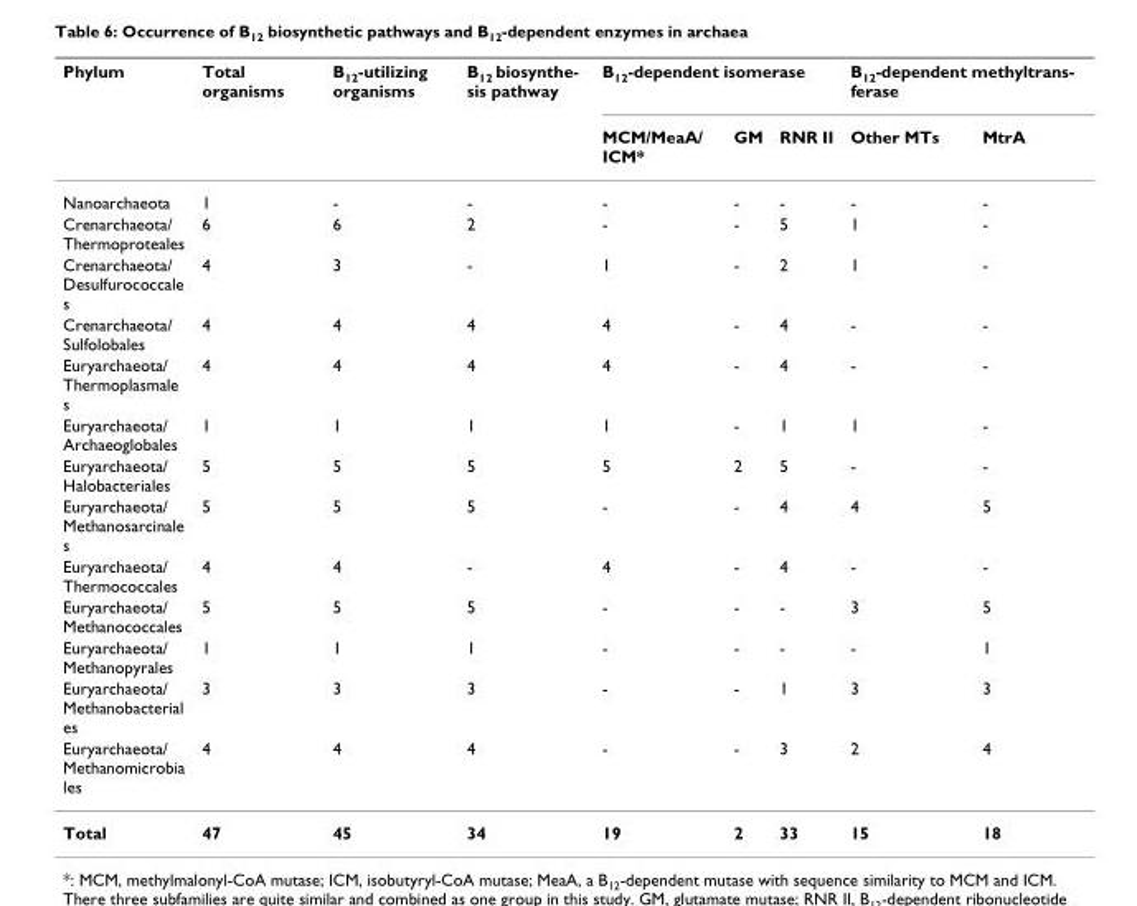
<table><thead><tr><td rowspan="2">Phylum</td><td rowspan="2">Total organisms</td><td rowspan="2">B<sub>12</sub>-utilizing organisms</td><td rowspan="2">B12 biosynthe- sis pathway</td><td colspan="3">B<sub>12</sub>-dependent isomerase</td><td colspan="2">B12-dependent methyltrans- ferase</td></tr><tr><td>MCM/MeaA/ ICM*</td><td>GM</td><td>RNR II</td><td>Other MTs</td><td>MtrA</td></tr></thead><tbody><tr><td>Nanoarchaeota</td><td>1</td><td>-</td><td>-</td><td>-</td><td>-</td><td>-</td><td>-</td><td>-</td></tr><tr><td>Crenarchaeota/ Thermoproteales</td><td>6</td><td>6</td><td>2</td><td>-</td><td>-</td><td>5</td><td>1</td><td>-</td></tr><tr><td>Crenarchaeota/ Desulfurococcale s</td><td>4</td><td>3</td><td>-</td><td>1</td><td>-</td><td>2</td><td>1</td><td>-</td></tr><tr><td>Crenarchaeota/ Sulfolobales</td><td>4</td><td>4</td><td>4</td><td>4</td><td>-</td><td>4</td><td>-</td><td>-</td></tr><tr><td>Euryarchaeota/ Thermoplasmale s</td><td>4</td><td>4</td><td>4</td><td>4</td><td>-</td><td>4</td><td>-</td><td>-</td></tr><tr><td>Euryarchaeota/ Archaeoglobales</td><td>1</td><td>1</td><td>1</td><td>1</td><td>-</td><td>1</td><td>1</td><td>-</td></tr><tr><td>Euryarchaeota/ Halobacteriales</td><td>5</td><td>5</td><td>5</td><td>5</td><td>2</td><td>5</td><td>-</td><td>-</td></tr><tr><td>Euryarchaeota/ Methanosarcinale s</td><td>5</td><td>5</td><td>5</td><td>-</td><td>-</td><td>4</td><td>4</td><td>5</td></tr><tr><td>Euryarchaeota/ Thermococcales</td><td>4</td><td>4</td><td>-</td><td>4</td><td>-</td><td>4</td><td>-</td><td>-</td></tr><tr><td>Euryarchaeota/ Methanococcales</td><td>5</td><td>5</td><td>5</td><td>-</td><td>-</td><td>-</td><td>3</td><td>5</td></tr><tr><td>Euryarchaeota/ Methanopyrales</td><td>1</td><td>1</td><td>1</td><td>-</td><td>-</td><td>-</td><td>-</td><td>1</td></tr><tr><td>Euryarchaeota/ Methanobacterial es</td><td>3</td><td>3</td><td>3</td><td>-</td><td>-</td><td>1</td><td>3</td><td>3</td></tr><tr><td>Euryarchaeota/ Methanomicrobia les</td><td>4</td><td>4</td><td>4</td><td>-</td><td>-</td><td>3</td><td>2</td><td>4</td></tr><tr><td>Total</td><td>47</td><td>45</td><td>34</td><td>19</td><td>2</td><td>33</td><td>15</td><td>18</td></tr></tbody></table>